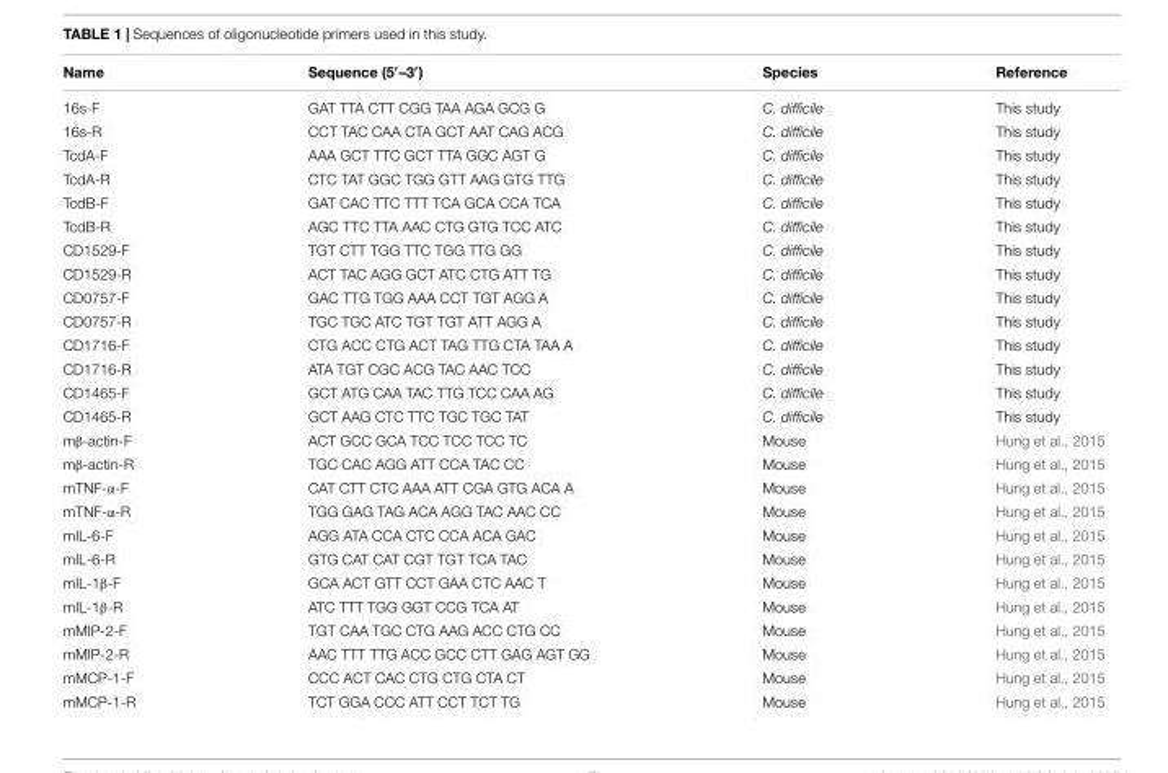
<table><thead><tr><td>Name</td><td>Sequence (5′–3′)</td><td>Species</td><td>Reference</td></tr></thead><tbody><tr><td>16s-F</td><td>GAT TTA CTT CGG TAA AGA GCG G</td><td>C. difficile</td><td>This study</td></tr><tr><td>16s-R</td><td>CCT TAC CAA CTA GCT AAT CAG ACG</td><td>C. difficile</td><td>This study</td></tr><tr><td>TcdA-F</td><td>AAA GCT TTC GCT TTA GGC AGT G</td><td>C. difficile</td><td>This study</td></tr><tr><td>TcdA-R</td><td>CTC TAT GGC TGG GTT AAG GTG TTG</td><td>C. difficile</td><td>This study</td></tr><tr><td>TcdB-F</td><td>GAT CAC TTC TTT TCA GCA CCA TCA</td><td>C. difficile</td><td>This study</td></tr><tr><td>TcdB-R</td><td>AGC TTC TTA AAC CTG GTG TCC ATC</td><td>C. difficile</td><td>This study</td></tr><tr><td>CD1529-F</td><td>TGT CTT TGG TTC TGG TTG GG</td><td>C. difficile</td><td>This study</td></tr><tr><td>CD1529-R</td><td>ACT TAC AGG GCT ATC CTG ATT TG</td><td>C. difficile</td><td>This study</td></tr><tr><td>CD0757-F</td><td>GAC TTG TGG AAA CCT TGT AGG A</td><td>C. difficile</td><td>This study</td></tr><tr><td>CD0757-R</td><td>TGC TGC ATC TGT TGT ATT AGG A</td><td>C. difficile</td><td>This study</td></tr><tr><td>CD1716-F</td><td>CTG ACC CTG ACT TAG TTG CTA TAA A</td><td>C. difficile</td><td>This study</td></tr><tr><td>CD1716-R</td><td>ATA TGT CGC ACG TAC AAC TCC</td><td>C. difficile</td><td>This study</td></tr><tr><td>CD1465-F</td><td>GCT ATG CAA TAC TTG TCC CAA AG</td><td>C. difficile</td><td>This study</td></tr><tr><td>CD1465-R</td><td>GCT AAG CTC TTC TGC TGC TAT</td><td>C. difficile</td><td>This study</td></tr><tr><td>mβ-actin-F</td><td>ACT GCC GCA TCC TCC TCC TC</td><td>Mouse</td><td>Hung et al., 2015</td></tr><tr><td>mβ-actin-R</td><td>TGC CAC AGG ATT CCA TAC CC</td><td>Mouse</td><td>Hung et al., 2015</td></tr><tr><td>mTNF-α-F</td><td>CAT CTT CTC AAA ATT CGA GTG ACA A</td><td>Mouse</td><td>Hung et al., 2015</td></tr><tr><td>mTNF-α-R</td><td>TGG GAG TAG ACA AGG TAC AAC CC</td><td>Mouse</td><td>Hung et al., 2015</td></tr><tr><td>mIL-6-F</td><td>AGG ATA CCA CTC CCA ACA GAC</td><td>Mouse</td><td>Hung et al., 2015</td></tr><tr><td>mIL-6-R</td><td>GTG CAT CAT CGT TGT TCA TAC</td><td>Mouse</td><td>Hung et al., 2015</td></tr><tr><td>mIL-1β-F</td><td>GCA ACT GTT CCT GAA CTC AAC T</td><td>Mouse</td><td>Hung et al., 2015</td></tr><tr><td>mIL-1β-R</td><td>ATC TTT TGG GGT CCG TCA AT</td><td>Mouse</td><td>Hung et al., 2015</td></tr><tr><td>mMIP-2-F</td><td>TGT CAA TGC CTG AAG ACC CTG CC</td><td>Mouse</td><td>Hung et al., 2015</td></tr><tr><td>mMIP-2-R</td><td>AAC TTT TTG ACC GCC CTT GAG AGT GG</td><td>Mouse</td><td>Hung et al., 2015</td></tr><tr><td>mMCP-1-F</td><td>CCC ACT CAC CTG CTG CTA CT</td><td>Mouse</td><td>Hung et al., 2015</td></tr><tr><td>mMCP-1-R</td><td>TCT GGA CCC ATT CCT TCT TG</td><td>Mouse</td><td>Hung et al., 2015</td></tr></tbody></table>